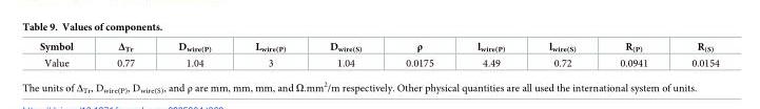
<table><thead><tr><td>Symbol</td><td>Δ<sub>Tr</sub></td><td>D<sub>wire(P)</sub></td><td>L<sub>wire(P)</sub></td><td>D<sub>wire(S)</sub></td><td>ρ</td><td>l<sub>wire(P)</sub></td><td>l<sub>wire(S)</sub></td><td>R<sub>(P)</sub></td><td>R<sub>(S)</sub></td></tr></thead><tbody><tr><td>Value</td><td>0.77</td><td>1.04</td><td>3</td><td>1.04</td><td>0.0175</td><td>4.49</td><td>0.72</td><td>0.0941</td><td>0.0154</td></tr></tbody></table>